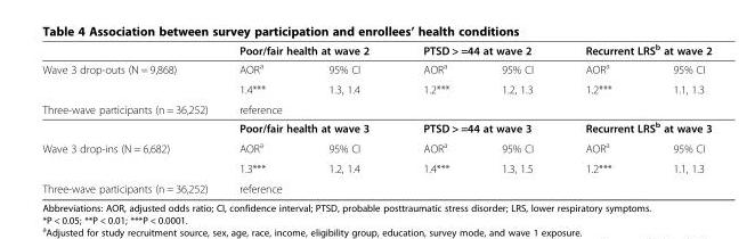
<table><thead><tr><td rowspan="2">Wave 3 drop-outs (N = 9,868)</td><td colspan="2">Poor/fair health at wave 2</td><td colspan="2">PTSD &gt; =44 at wave 2</td><td colspan="2">Recurrent LRS<sup>b</sup> at wave 2</td></tr><tr><td>AOR<sup>a</sup></td><td>95% CI</td><td>AOR<sup>a</sup></td><td>95% CI</td><td>AOR<sup>a</sup></td><td>95% CI</td></tr></thead><tbody><tr><td></td><td>1.4***</td><td>1.3, 1.4</td><td>1.2***</td><td>1.2, 1.3</td><td>1.2***</td><td>1.1, 1.3</td></tr><tr><td rowspan="2">Three-wave participants (n = 36,252)</td><td colspan="6">reference</td></tr><tr><td colspan="2">Poor/fair health at wave 3</td><td colspan="2">PTSD &gt; =44 at wave 3</td><td colspan="2">Recurrent LRS<sup>b</sup> at wave 3</td></tr><tr><td rowspan="2">Wave 3 drop-ins (N = 6,682)</td><td>AOR<sup>a</sup></td><td>95% CI</td><td>AOR<sup>a</sup></td><td>95% CI</td><td>AOR<sup>a</sup></td><td>95% CI</td></tr><tr><td>1.3***</td><td>1.2, 1.4</td><td>1.4***</td><td>1.3, 1.5</td><td>1.2***</td><td>1.1, 1.3</td></tr><tr><td>Three-wave participants (n = 36,252)</td><td colspan="6">reference</td></tr></tbody></table>